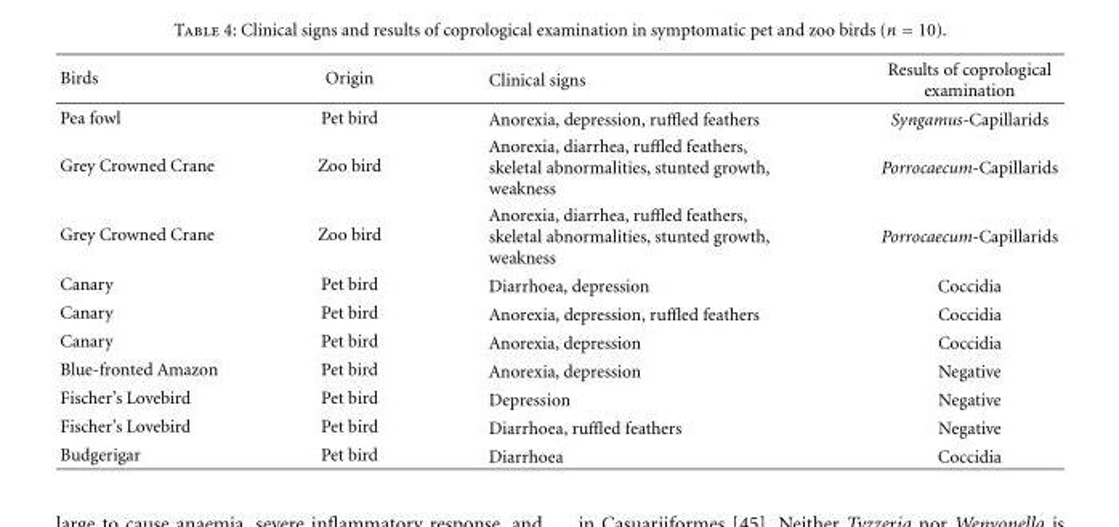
<table><thead><tr><td>Birds</td><td>Origin</td><td>Clinical signs</td><td>Results of coprological examination</td></tr></thead><tbody><tr><td>Pea fowl</td><td>Pet bird</td><td>Anorexia, depression, ruffled feathers</td><td>Syngamus-Capillarids</td></tr><tr><td>Grey Crowned Crane</td><td>Zoo bird</td><td>Anorexia, diarrhea, ruffled feathers, skeletal abnormalities, stunted growth, weakness</td><td>Porrocaecum-Capillarids</td></tr><tr><td>Grey Crowned Crane</td><td>Zoo bird</td><td>Anorexia, diarrhea, ruffled feathers, skeletal abnormalities, stunted growth, weakness</td><td>Porrocaecum-Capillarids</td></tr><tr><td>Canary</td><td>Pet bird</td><td>Diarrhoea, depression</td><td>Coccidia</td></tr><tr><td>Canary</td><td>Pet bird</td><td>Anorexia, depression, ruffled feathers</td><td>Coccidia</td></tr><tr><td>Canary</td><td>Pet bird</td><td>Anorexia, depression</td><td>Coccidia</td></tr><tr><td>Blue-fronted Amazon</td><td>Pet bird</td><td>Anorexia, depression</td><td>Negative</td></tr><tr><td>Fischer’s Lovebird</td><td>Pet bird</td><td>Depression</td><td>Negative</td></tr><tr><td>Fischer’s Lovebird</td><td>Pet bird</td><td>Diarrhoea, ruffled feathers</td><td>Negative</td></tr><tr><td>Budgerigar</td><td>Pet bird</td><td>Diarrhoea</td><td>Coccidia</td></tr></tbody></table>